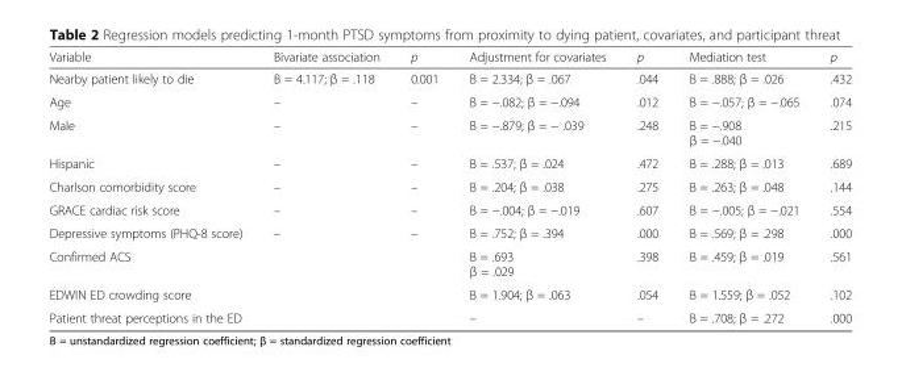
<table><thead><tr><td>Variable</td><td>Bivariate association</td><td>p</td><td>Adjustment for covariates</td><td>p</td><td>Mediation test</td><td>p</td></tr></thead><tbody><tr><td>Nearby patient likely to die</td><td>B = 4.117; β = .118</td><td>0.001</td><td>B = 2.334; β = .067</td><td>.044</td><td>B = .888; β = .026</td><td>.432</td></tr><tr><td>Age</td><td>–</td><td>–</td><td>B = −.082; β = −.094</td><td>.012</td><td>B = −.057; β = −.065</td><td>.074</td></tr><tr><td>Male</td><td>–</td><td>–</td><td>B = −.879; β = − .039</td><td>.248</td><td>B = −.908 β = −.040</td><td>.215</td></tr><tr><td>Hispanic</td><td>–</td><td>–</td><td>B = .537; β = .024</td><td>.472</td><td>B = .288; β = .013</td><td>.689</td></tr><tr><td>Charlson comorbidity score</td><td>–</td><td>–</td><td>B = .204; β = .038</td><td>.275</td><td>B = .263; β = .048</td><td>.144</td></tr><tr><td>GRACE cardiac risk score</td><td>–</td><td>–</td><td>B = −.004; β = −.019</td><td>.607</td><td>B = −.005; β = −.021</td><td>.554</td></tr><tr><td>Depressive symptoms (PHQ-8 score)</td><td>–</td><td>–</td><td>B = .752; β = .394</td><td>.000</td><td>B = .569; β = .298</td><td>.000</td></tr><tr><td>Confirmed ACS</td><td></td><td></td><td>B = .693 β = .029</td><td>.398</td><td>B = .459; β = .019</td><td>.561</td></tr><tr><td>EDWIN ED crowding score</td><td></td><td></td><td>B = 1.904; β = .063</td><td>.054</td><td>B = 1.559; β = .052</td><td>.102</td></tr><tr><td>Patient threat perceptions in the ED</td><td></td><td></td><td>–</td><td>–</td><td>B = .708; β = .272</td><td>.000</td></tr></tbody></table>